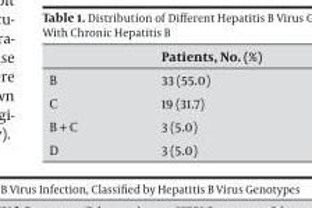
<table><thead><tr><td></td><td>Patients, No. (%)</td></tr></thead><tbody><tr><td>B</td><td>33 (55.0)</td></tr><tr><td>C</td><td>19 (31.7)</td></tr><tr><td>B + C</td><td>3 (5.0)</td></tr><tr><td>D</td><td>3 (5.0)</td></tr></tbody></table>